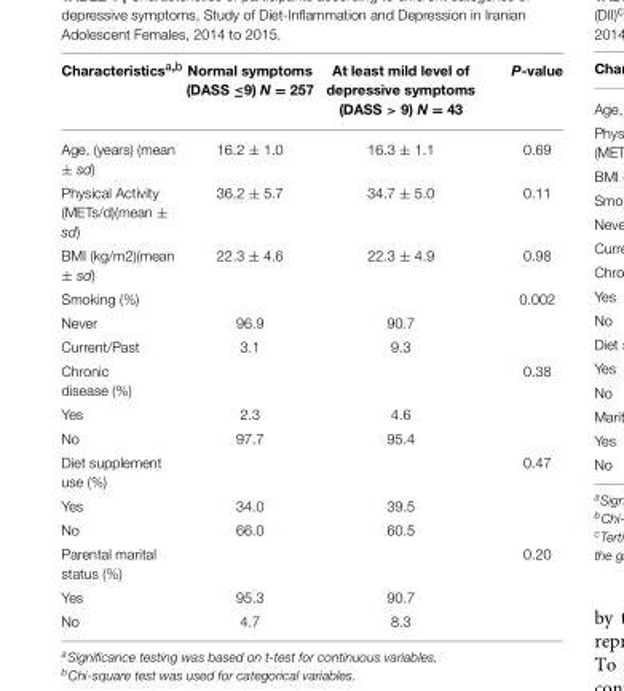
<table><thead><tr><td>Characteristics<sup>a,b</sup></td><td>Normal symptoms (DASS ≤9) N = 257</td><td>At least mild level of depressive symptoms (DASS &gt; 9) N = 43</td><td>P-value</td></tr></thead><tbody><tr><td>Age, (years) (mean ± sd)</td><td>16.2 ± 1.0</td><td>16.3 ± 1.1</td><td>0.69</td></tr><tr><td>Physical Activity (METs/d)(mean ± sd)</td><td>36.2 ± 5.7</td><td>34.7 ± 5.0</td><td>0.11</td></tr><tr><td>BMI (kg/m2)(mean ± sd)</td><td>22.3 ± 4.6</td><td>22.3 ± 4.9</td><td>0.98</td></tr><tr><td>Smoking (%)</td><td></td><td></td><td>0.002</td></tr><tr><td>Never</td><td>96.9</td><td>90.7</td><td></td></tr><tr><td>Current/Past</td><td>3.1</td><td>9.3</td><td></td></tr><tr><td>Chronic disease (%)</td><td></td><td></td><td>0.38</td></tr><tr><td>Yes</td><td>2.3</td><td>4.6</td><td></td></tr><tr><td>No</td><td>97.7</td><td>95.4</td><td></td></tr><tr><td>Diet supplement use (%)</td><td></td><td></td><td>0.47</td></tr><tr><td>Yes</td><td>34.0</td><td>39.5</td><td></td></tr><tr><td>No</td><td>66.0</td><td>60.5</td><td></td></tr><tr><td>Parental marital status (%)</td><td></td><td></td><td>0.20</td></tr><tr><td>Yes</td><td>95.3</td><td>90.7</td><td></td></tr><tr><td>No</td><td>4.7</td><td>8.3</td><td></td></tr></tbody></table>